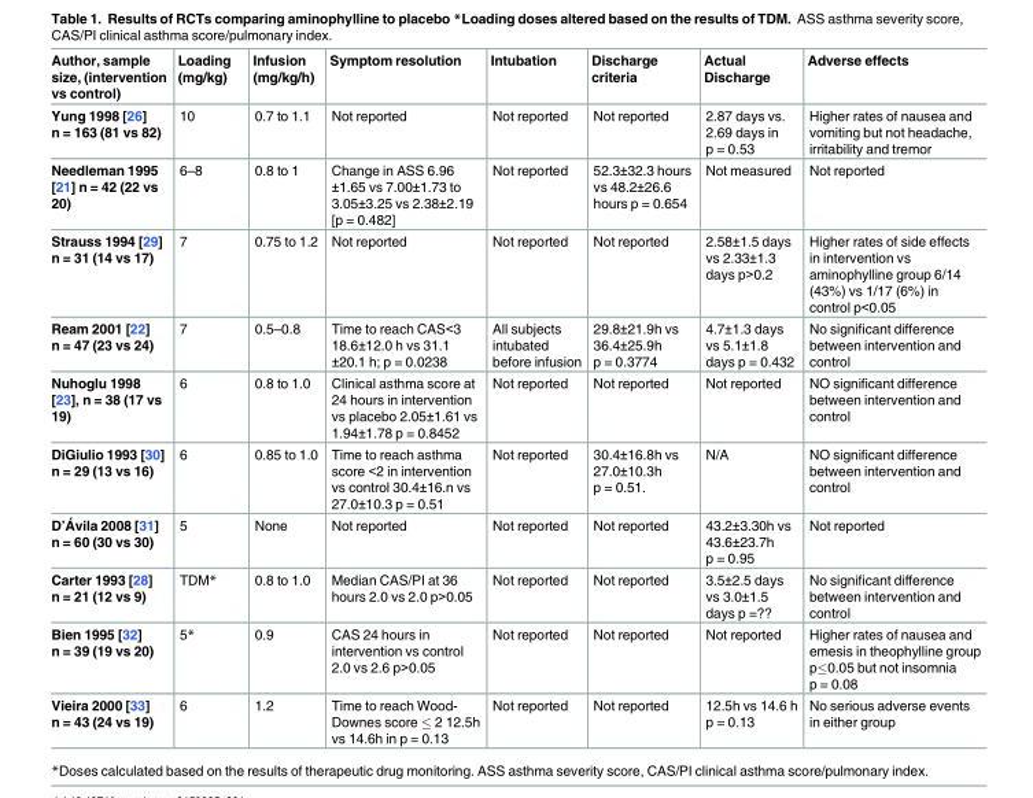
<table><thead><tr><td>Author, sample size, (intervention vs control)</td><td>Loading (mg/kg)</td><td>Infusion (mg/kg/h)</td><td>Symptom resolution</td><td>Intubation</td><td>Discharge criteria</td><td>Actual Discharge</td><td>Adverse effects</td></tr></thead><tbody><tr><td>Yung 1998 [26] n = 163 (81 vs 82)</td><td>10</td><td>0.7 to 1.1</td><td>Not reported</td><td>Not reported</td><td>Not reported</td><td>2.87 days vs. 2.69 days in p = 0.53</td><td>Higher rates of nausea and vomiting but not headache, irritability and tremor</td></tr><tr><td>Needleman 1995 [21] n = 42 (22 vs 20)</td><td>6–8</td><td>0.8 to 1</td><td>Change in ASS 6.96 ±1.65 vs 7.00±1.73 to 3.05±3.25 vs 2.38±2.19 [p = 0.482]</td><td>Not reported</td><td>52.3±32.3 hours vs 48.2±26.6 hours p = 0.654</td><td>Not measured</td><td>Not reported</td></tr><tr><td>Strauss 1994 [29] n = 31 (14 vs 17)</td><td>7</td><td>0.75 to 1.2</td><td>Not reported</td><td>Not reported</td><td>Not reported</td><td>2.58±1.5 days vs 2.33±1.3 days p&gt;0.2</td><td>Higher rates of side effects in intervention vs aminophylline group 6/14 (43%) vs 1/17 (6%) in control p&lt;0.05</td></tr><tr><td>Ream 2001 [22] n = 47 (23 vs 24)</td><td>7</td><td>0.5–0.8</td><td>Time to reach CAS&lt;3 18.6±12.0 h vs 31.1 ±20.1 h; p = 0.0238</td><td>All subjects intubated before infusion</td><td>29.8±21.9h vs 36.4±25.9h p = 0.3774</td><td>4.7±1.3 days vs 5.1±1.8 days p = 0.432</td><td>No significant difference between intervention and control</td></tr><tr><td>Nuhoglu 1998 [23], n = 38 (17 vs 19)</td><td>6</td><td>0.8 to 1.0</td><td>Clinical asthma score at 24 hours in intervention vs placebo 2.05±1.61 vs 1.94±1.78 p = 0.8452</td><td>Not reported</td><td>Not reported</td><td>Not reported</td><td>NO significant difference between intervention and control</td></tr><tr><td>DiGiulio 1993 [30] n = 29 (13 vs 16)</td><td>6</td><td>0.85 to 1.0</td><td>Time to reach asthma score &lt;2 in intervention vs control 30.4±16.n vs 27.0±10.3 p = 0.51</td><td>Not reported</td><td>30.4±16.8h vs 27.0±10.3h p = 0.51.</td><td>N/A</td><td>NO significant difference between intervention and control</td></tr><tr><td>D’Ávila 2008 [31] n = 60 (30 vs 30)</td><td>5</td><td>None</td><td>Not reported</td><td>Not reported</td><td>Not reported</td><td>43.2±3.30h vs 43.6±23.7h p = 0.95</td><td>Not reported</td></tr><tr><td>Carter 1993 [28] n = 21 (12 vs 9)</td><td>TDM*</td><td>0.8 to 1.0</td><td>Median CAS/PI at 36 hours 2.0 vs 2.0 p&gt;0.05</td><td>Not reported</td><td>Not reported</td><td>3.5±2.5 days vs 3.0±1.5 days p =??</td><td>No significant difference between intervention and control</td></tr><tr><td>Bien 1995 [32] n = 39 (19 vs 20)</td><td>5*</td><td>0.9</td><td>CAS 24 hours in intervention vs control 2.0 vs 2.6 p&gt;0.05</td><td>Not reported</td><td>Not reported</td><td>Not reported</td><td>Higher rates of nausea and emesis in theophylline group p≤0.05 but not insomnia p = 0.08</td></tr><tr><td>Vieira 2000 [33] n = 43 (24 vs 19)</td><td>6</td><td>1.2</td><td>Time to reach Wood- Downes score ≤ 2 12.5h vs 14.6h in p = 0.13</td><td>Not reported</td><td>Not reported</td><td>12.5h vs 14.6 h p = 0.13</td><td>No serious adverse events in either group</td></tr></tbody></table>